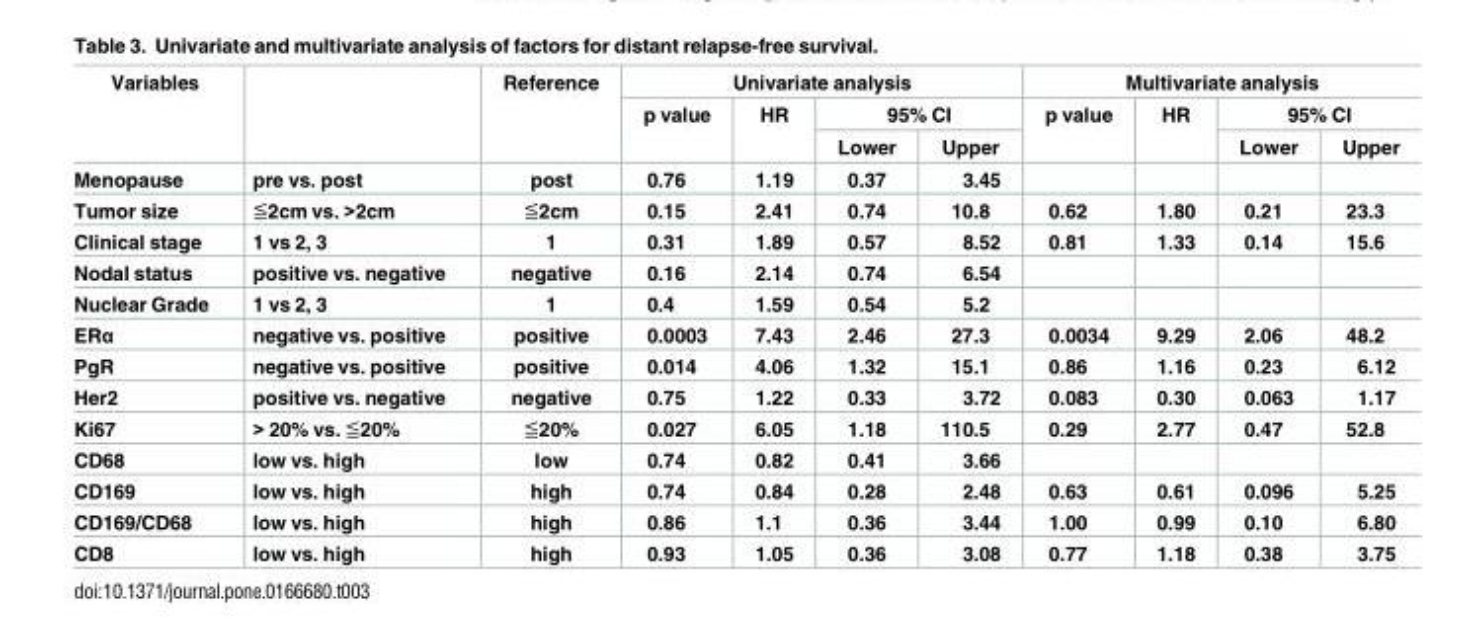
<table><thead><tr><td rowspan="3">Variables</td><td rowspan="3"></td><td rowspan="3">Reference</td><td colspan="4">Univariate analysis</td><td colspan="4">Multivariate analysis</td></tr><tr><td rowspan="2">p value</td><td rowspan="2">HR</td><td colspan="2">95% CI</td><td rowspan="2">p value</td><td rowspan="2">HR</td><td colspan="2">95% CI</td></tr><tr><td>Lower</td><td>Upper</td><td>Lower</td><td>Upper</td></tr></thead><tbody><tr><td>Menopause</td><td>pre vs. post</td><td>post</td><td>0.76</td><td>1.19</td><td>0.37</td><td>3.45</td><td></td><td></td><td></td><td></td></tr><tr><td>Tumor size</td><td>≦2cm vs. &gt;2cm</td><td>≦2cm</td><td>0.15</td><td>2.41</td><td>0.74</td><td>10.8</td><td>0.62</td><td>1.80</td><td>0.21</td><td>23.3</td></tr><tr><td>Clinical stage</td><td>1 vs 2, 3</td><td>1</td><td>0.31</td><td>1.89</td><td>0.57</td><td>8.52</td><td>0.81</td><td>1.33</td><td>0.14</td><td>15.6</td></tr><tr><td>Nodal status</td><td>positive vs. negative</td><td>negative</td><td>0.16</td><td>2.14</td><td>0.74</td><td>6.54</td><td></td><td></td><td></td><td></td></tr><tr><td>Nuclear Grade</td><td>1 vs 2, 3</td><td>1</td><td>0.4</td><td>1.59</td><td>0.54</td><td>5.2</td><td></td><td></td><td></td><td></td></tr><tr><td>ERα</td><td>negative vs. positive</td><td>positive</td><td>0.0003</td><td>7.43</td><td>2.46</td><td>27.3</td><td>0.0034</td><td>9.29</td><td>2.06</td><td>48.2</td></tr><tr><td>PgR</td><td>negative vs. positive</td><td>positive</td><td>0.014</td><td>4.06</td><td>1.32</td><td>15.1</td><td>0.86</td><td>1.16</td><td>0.23</td><td>6.12</td></tr><tr><td>Her2</td><td>positive vs. negative</td><td>negative</td><td>0.75</td><td>1.22</td><td>0.33</td><td>3.72</td><td>0.083</td><td>0.30</td><td>0.063</td><td>1.17</td></tr><tr><td>Ki67</td><td>&gt; 20% vs. ≦20%</td><td>≦20%</td><td>0.027</td><td>6.05</td><td>1.18</td><td>110.5</td><td>0.29</td><td>2.77</td><td>0.47</td><td>52.8</td></tr><tr><td>CD68</td><td>low vs. high</td><td>low</td><td>0.74</td><td>0.82</td><td>0.41</td><td>3.66</td><td></td><td></td><td></td><td></td></tr><tr><td>CD169</td><td>low vs. high</td><td>high</td><td>0.74</td><td>0.84</td><td>0.28</td><td>2.48</td><td>0.63</td><td>0.61</td><td>0.096</td><td>5.25</td></tr><tr><td>CD169/CD68</td><td>low vs. high</td><td>high</td><td>0.86</td><td>1.1</td><td>0.36</td><td>3.44</td><td>1.00</td><td>0.99</td><td>0.10</td><td>6.80</td></tr><tr><td>CD8</td><td>low vs. high</td><td>high</td><td>0.93</td><td>1.05</td><td>0.36</td><td>3.08</td><td>0.77</td><td>1.18</td><td>0.38</td><td>3.75</td></tr></tbody></table>